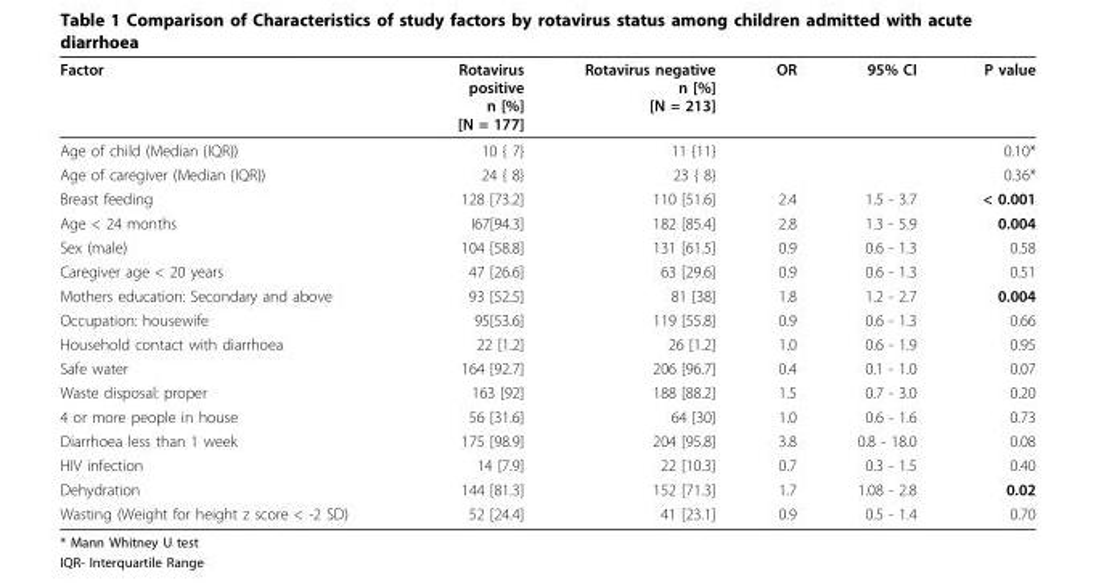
<table><thead><tr><td>Factor</td><td>Rotavirus positive n [%] [N = 177]</td><td>Rotavirus negative n [%] [N = 213]</td><td>OR</td><td>95% CI</td><td>P value</td></tr></thead><tbody><tr><td>Age of child (Median {IQR})</td><td>10 { 7}</td><td>11 {11}</td><td></td><td></td><td>0.10*</td></tr><tr><td>Age of caregiver (Median {IQR})</td><td>24 { 8}</td><td>23 { 8}</td><td></td><td></td><td>0.36*</td></tr><tr><td>Breast feeding</td><td>128 [73.2]</td><td>110 [51.6]</td><td>2.4</td><td>1.5 - 3.7</td><td>&lt; 0.001</td></tr><tr><td>Age &lt; 24 months</td><td>I67[94.3]</td><td>182 [85.4]</td><td>2.8</td><td>1.3 - 5.9</td><td>0.004</td></tr><tr><td>Sex (male)</td><td>104 [58.8]</td><td>131 [61.5]</td><td>0.9</td><td>0.6 - 1.3</td><td>0.58</td></tr><tr><td>Caregiver age &lt; 20 years</td><td>47 [26.6]</td><td>63 [29.6]</td><td>0.9</td><td>0.6 - 1.3</td><td>0.51</td></tr><tr><td>Mothers education: Secondary and above</td><td>93 [52.5]</td><td>81 [38]</td><td>1.8</td><td>1.2 - 2.7</td><td>0.004</td></tr><tr><td>Occupation: housewife</td><td>95[53.6]</td><td>119 [55.8]</td><td>0.9</td><td>0.6 - 1.3</td><td>0.66</td></tr><tr><td>Household contact with diarrhoea</td><td>22 [1.2]</td><td>26 [1.2]</td><td>1.0</td><td>0.6 - 1.9</td><td>0.95</td></tr><tr><td>Safe water</td><td>164 [92.7]</td><td>206 [96.7]</td><td>0.4</td><td>0.1 - 1.0</td><td>0.07</td></tr><tr><td>Waste disposal: proper</td><td>163 [92]</td><td>188 [88.2]</td><td>1.5</td><td>0.7 - 3.0</td><td>0.20</td></tr><tr><td>4 or more people in house</td><td>56 [31.6]</td><td>64 [30]</td><td>1.0</td><td>0.6 - 1.6</td><td>0.73</td></tr><tr><td>Diarrhoea less than 1 week</td><td>175 [98.9]</td><td>204 [95.8]</td><td>3.8</td><td>0.8 - 18.0</td><td>0.08</td></tr><tr><td>HIV infection</td><td>14 [7.9]</td><td>22 [10.3]</td><td>0.7</td><td>0.3 - 1.5</td><td>0.40</td></tr><tr><td>Dehydration</td><td>144 [81.3]</td><td>152 [71.3]</td><td>1.7</td><td>1.08 - 2.8</td><td>0.02</td></tr><tr><td>Wasting (Weight for height z score &lt; -2 SD)</td><td>52 [24.4]</td><td>41 [23.1]</td><td>0.9</td><td>0.5 - 1.4</td><td>0.70</td></tr></tbody></table>